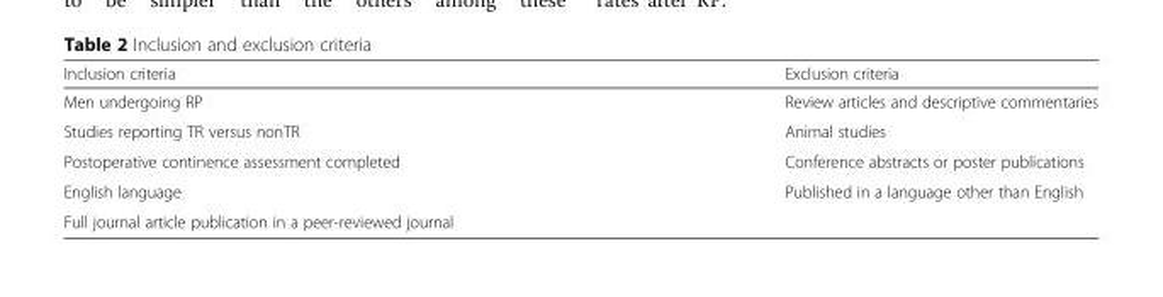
<table><thead><tr><td>Inclusion criteria</td><td>Exclusion criteria</td></tr></thead><tbody><tr><td>Men undergoing RP</td><td>Review articles and descriptive commentaries</td></tr><tr><td>Studies reporting TR versus nonTR</td><td>Animal studies</td></tr><tr><td>Postoperative continence assessment completed</td><td>Conference abstracts or poster publications</td></tr><tr><td>English language</td><td>Published in a language other than English</td></tr><tr><td>Full journal article publication in a peer-reviewed journal</td><td></td></tr></tbody></table>